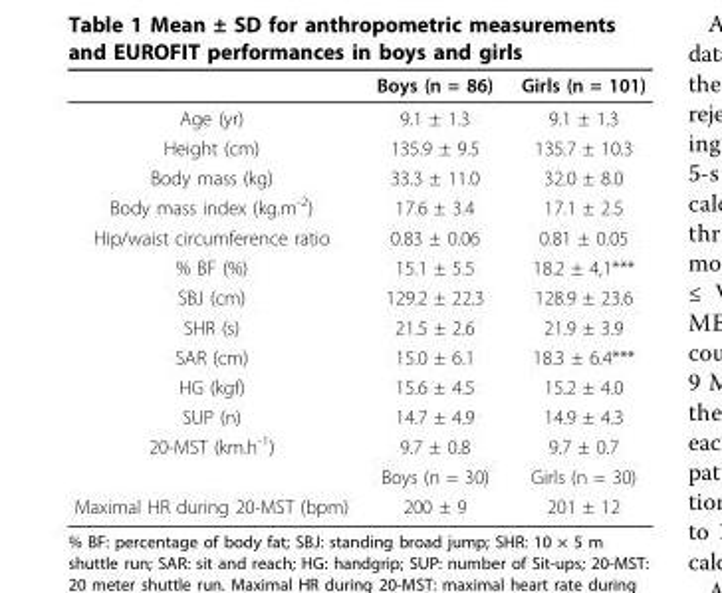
<table><thead><tr><td></td><td>Boys (n = 86)</td><td>Girls (n = 101)</td></tr></thead><tbody><tr><td>Age (yr)</td><td>9.1 ± 1.3</td><td>9.1 ± 1.3</td></tr><tr><td>Height (cm)</td><td>135.9 ± 9.5</td><td>135.7 ± 10.3</td></tr><tr><td>Body mass (kg)</td><td>33.3 ± 11.0</td><td>32.0 ± 8.0</td></tr><tr><td>Body mass index (kg.m<sup>-2</sup>)</td><td>17.6 ± 3.4</td><td>17.1 ± 2.5</td></tr><tr><td>Hip/waist circumference ratio</td><td>0.83 ± 0.06</td><td>0.81 ± 0.05</td></tr><tr><td>% BF (%)</td><td>15.1 ± 5.5</td><td>18.2 ± 4,1***</td></tr><tr><td>SBJ (cm)</td><td>129.2 ± 22.3</td><td>128.9 ± 23.6</td></tr><tr><td>SHR (s)</td><td>21.5 ± 2.6</td><td>21.9 ± 3.9</td></tr><tr><td>SAR (cm)</td><td>15.0 ± 6.1</td><td>18.3 ± 6.4***</td></tr><tr><td>HG (kgf)</td><td>15.6 ± 4.5</td><td>15.2 ± 4.0</td></tr><tr><td>SUP (n)</td><td>14.7 ± 4.9</td><td>14.9 ± 4.3</td></tr><tr><td rowspan="2">20-MST (km.h<sup>-1</sup>)</td><td>9.7 ± 0.8</td><td>9.7 ± 0.7</td></tr><tr><td>Boys (n = 30)</td><td>Girls (n = 30)</td></tr><tr><td>Maximal HR during 20-MST (bpm)</td><td>200 ± 9</td><td>201 ± 12</td></tr></tbody></table>